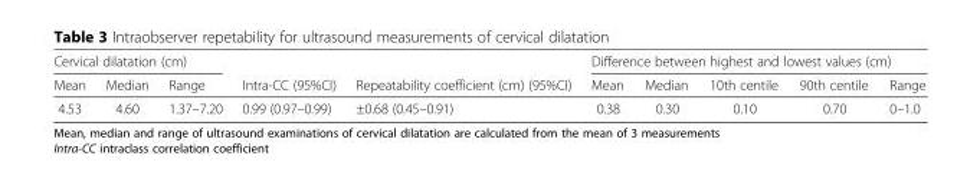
<table><thead><tr><td colspan="3">Cervical dilatation (cm)</td><td rowspan="2">Intra-CC (95%CI)</td><td rowspan="2">Repeatability coefficient (cm) (95%CI)</td><td colspan="5">Difference between highest and lowest values (cm)</td></tr><tr><td>Mean</td><td>Median</td><td>Range</td><td>Mean</td><td>Median</td><td>10th centile</td><td>90th centile</td><td>Range</td></tr></thead><tbody><tr><td>4.53</td><td>4.60</td><td>1.37–7.20</td><td>0.99 (0.97–0.99)</td><td>±0.68 (0.45–0.91)</td><td>0.38</td><td>0.30</td><td>0.10</td><td>0.70</td><td>0–1.0</td></tr></tbody></table>